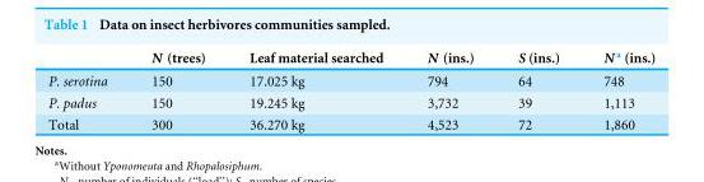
<table><thead><tr><td></td><td>N (trees)</td><td>Leaf material searched</td><td>N (ins.)</td><td>S (ins.)</td><td>N <sup>a</sup> (ins.)</td></tr></thead><tbody><tr><td>P. serotina</td><td>150</td><td>17.025 kg</td><td>794</td><td>64</td><td>748</td></tr><tr><td>P. padus</td><td>150</td><td>19.245 kg</td><td>3,732</td><td>39</td><td>1,113</td></tr><tr><td>Total</td><td>300</td><td>36.270 kg</td><td>4,523</td><td>72</td><td>1,860</td></tr></tbody></table>